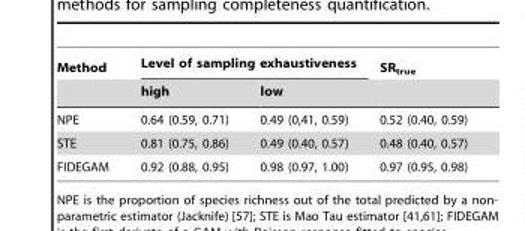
<table><thead><tr><td rowspan="2">Method</td><td colspan="2">Level of sampling exhaustiveness</td><td rowspan="2">SR<sub>true</sub></td></tr><tr><td>high</td><td>low</td></tr></thead><tbody><tr><td>NPE</td><td>0.64 (0.59, 0.71)</td><td>0.49 (0,41, 0.59)</td><td>0.52 (0.40, 0.59)</td></tr><tr><td>STE</td><td>0.81 (0.75, 0.86)</td><td>0.49 (0.40, 0.57)</td><td>0.48 (0.40, 0.57)</td></tr><tr><td>FIDEGAM</td><td>0.92 (0.88, 0.95)</td><td>0.98 (0.97, 1.00)</td><td>0.97 (0.95, 0.98)</td></tr></tbody></table>